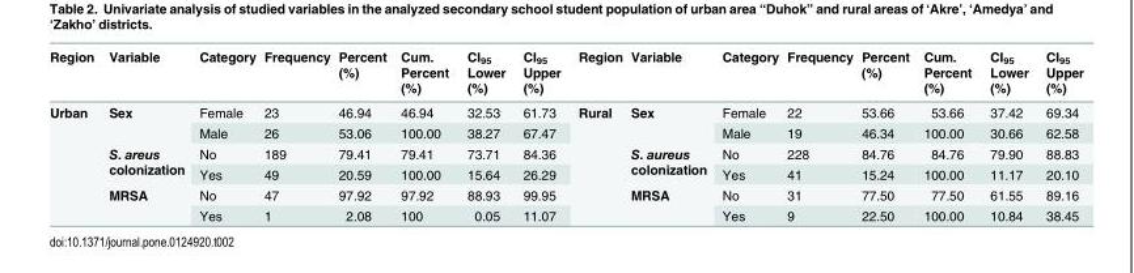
<table><thead><tr><td>Region</td><td>Variable</td><td>Category</td><td>Frequency</td><td>Percent (%)</td><td>Cum. Percent (%)</td><td>CI<sub>95</sub> Lower (%)</td><td>CI<sub>95</sub> Upper (%)</td><td>Region</td><td>Variable</td><td>Category</td><td>Frequency</td><td>Percent (%)</td><td>Cum. Percent (%)</td><td>CI<sub>95</sub> Lower (%)</td><td>CI<sub>95</sub> Upper (%)</td></tr></thead><tbody><tr><td rowspan="6">Urban</td><td rowspan="2">Sex</td><td>Female</td><td>23</td><td>46.94</td><td>46.94</td><td>32.53</td><td>61.73</td><td rowspan="6">Rural</td><td rowspan="2">Sex</td><td>Female</td><td>22</td><td>53.66</td><td>53.66</td><td>37.42</td><td>69.34</td></tr><tr><td>Male</td><td>26</td><td>53.06</td><td>100.00</td><td>38.27</td><td>67.47</td><td>Male</td><td>19</td><td>46.34</td><td>100.00</td><td>30.66</td><td>62.58</td></tr><tr><td rowspan="2">S. areus colonization</td><td>No</td><td>189</td><td>79.41</td><td>79.41</td><td>73.71</td><td>84.36</td><td rowspan="2">S. aureus colonization</td><td>No</td><td>228</td><td>84.76</td><td>84.76</td><td>79.90</td><td>88.83</td></tr><tr><td>Yes</td><td>49</td><td>20.59</td><td>100.00</td><td>15.64</td><td>26.29</td><td>Yes</td><td>41</td><td>15.24</td><td>100.00</td><td>11.17</td><td>20.10</td></tr><tr><td rowspan="2">MRSA</td><td>No</td><td>47</td><td>97.92</td><td>97.92</td><td>88.93</td><td>99.95</td><td rowspan="2">MRSA</td><td>No</td><td>31</td><td>77.50</td><td>77.50</td><td>61.55</td><td>89.16</td></tr><tr><td>Yes</td><td>1</td><td>2.08</td><td>100</td><td>0.05</td><td>11.07</td><td>Yes</td><td>9</td><td>22.50</td><td>100.00</td><td>10.84</td><td>38.45</td></tr></tbody></table>